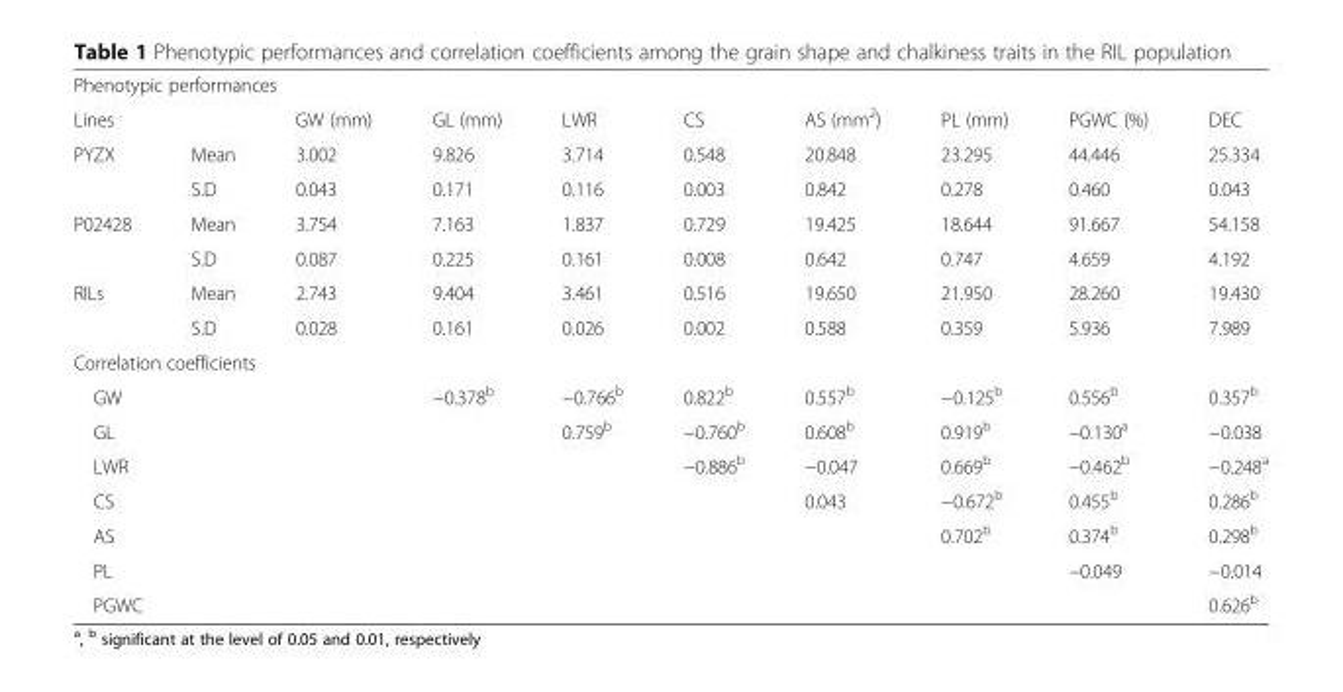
<table><tbody><tr><td colspan="10">Phenotypic performances</td></tr><tr><td colspan="2">Lines</td><td>GW (mm)</td><td>GL (mm)</td><td>LWR</td><td>CS</td><td>AS (mm<sup>2</sup>)</td><td>PL (mm)</td><td>PGWC (%)</td><td>DEC</td></tr><tr><td rowspan="2">PYZX</td><td>Mean</td><td>3.002</td><td>9.826</td><td>3.714</td><td>0.548</td><td>20.848</td><td>23.295</td><td>44.446</td><td>25.334</td></tr><tr><td>S.D</td><td>0.043</td><td>0.171</td><td>0.116</td><td>0.003</td><td>0.842</td><td>0.278</td><td>0.460</td><td>0.043</td></tr><tr><td rowspan="2">P02428</td><td>Mean</td><td>3.754</td><td>7.163</td><td>1.837</td><td>0.729</td><td>19.425</td><td>18.644</td><td>91.667</td><td>54.158</td></tr><tr><td>S.D</td><td>0.087</td><td>0.225</td><td>0.161</td><td>0.008</td><td>0.642</td><td>0.747</td><td>4.659</td><td>4.192</td></tr><tr><td rowspan="2">RILs</td><td>Mean</td><td>2.743</td><td>9.404</td><td>3.461</td><td>0.516</td><td>19.650</td><td>21.950</td><td>28.260</td><td>19.430</td></tr><tr><td>S.D</td><td>0.028</td><td>0.161</td><td>0.026</td><td>0.002</td><td>0.588</td><td>0.359</td><td>5.936</td><td>7.989</td></tr><tr><td colspan="10">Correlation coefficients</td></tr><tr><td colspan="2">GW</td><td></td><td>−0.378<sup>b</sup></td><td>−0.766<sup>b</sup></td><td>0.822<sup>b</sup></td><td>0.557<sup>b</sup></td><td>−0.125<sup>b</sup></td><td>0.556<sup>b</sup></td><td>0.357<sup>b</sup></td></tr><tr><td colspan="2">GL</td><td></td><td></td><td>0.759<sup>b</sup></td><td>−0.760<sup>b</sup></td><td>0.608<sup>b</sup></td><td>0.919<sup>b</sup></td><td>−0.130<sup>a</sup></td><td>−0.038</td></tr><tr><td colspan="2">LWR</td><td></td><td></td><td></td><td>−0.886<sup>b</sup></td><td>−0.047</td><td>0.669<sup>b</sup></td><td>−0.462<sup>b</sup></td><td>−0.248<sup>a</sup></td></tr><tr><td colspan="2">CS</td><td></td><td></td><td></td><td></td><td>0.043</td><td>−0.672<sup>b</sup></td><td>0.455<sup>b</sup></td><td>0.286<sup>b</sup></td></tr><tr><td colspan="2">AS</td><td></td><td></td><td></td><td></td><td></td><td>0.702<sup>b</sup></td><td>0.374<sup>b</sup></td><td>0.298<sup>b</sup></td></tr><tr><td colspan="2">PL</td><td></td><td></td><td></td><td></td><td></td><td></td><td>−0.049</td><td>−0.014</td></tr><tr><td colspan="2">PGWC</td><td></td><td></td><td></td><td></td><td></td><td></td><td></td><td>0.626<sup>b</sup></td></tr></tbody></table>